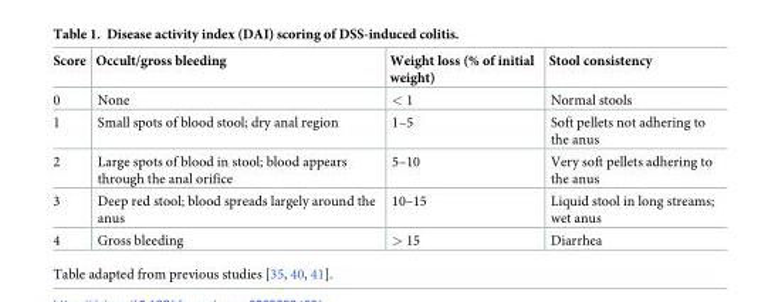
<table><thead><tr><td>Score</td><td>Occult/gross bleeding</td><td>Weight loss (% of initial weight)</td><td>Stool consistency</td></tr></thead><tbody><tr><td>0</td><td>None</td><td>&lt; 1</td><td>Normal stools</td></tr><tr><td>1</td><td>Small spots of blood stool; dry anal region</td><td>1–5</td><td>Soft pellets not adhering to the anus</td></tr><tr><td>2</td><td>Large spots of blood in stool; blood appears through the anal orifice</td><td>5–10</td><td>Very soft pellets adhering to the anus</td></tr><tr><td>3</td><td>Deep red stool; blood spreads largely around the anus</td><td>10–15</td><td>Liquid stool in long streams; wet anus</td></tr><tr><td>4</td><td>Gross bleeding</td><td>&gt; 15</td><td>Diarrhea</td></tr></tbody></table>